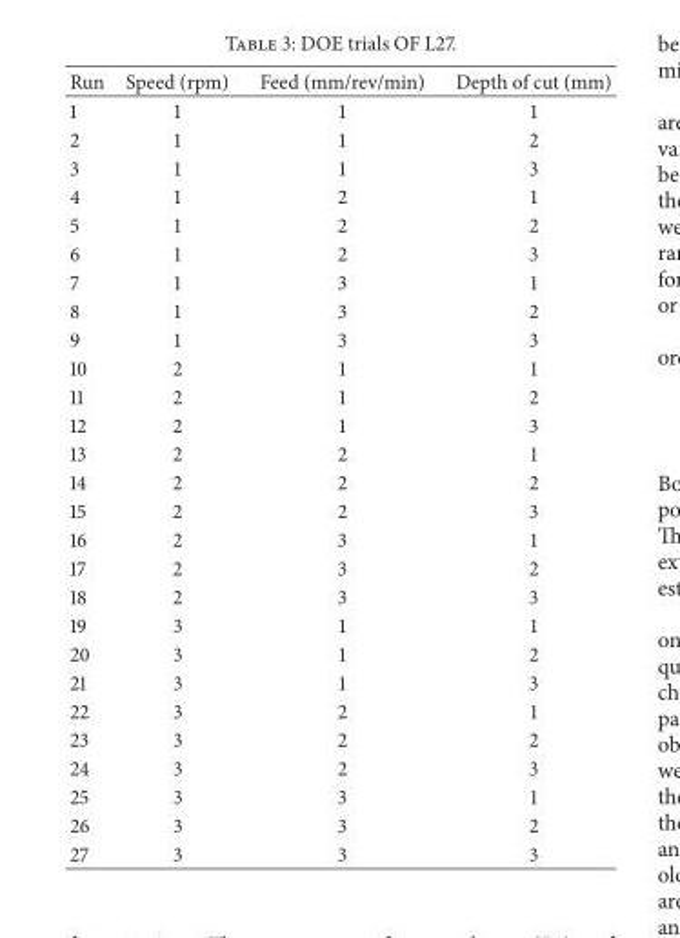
<table><thead><tr><td>Run</td><td>Speed (rpm)</td><td>Feed (mm/rev/min)</td><td>Depth of cut (mm)</td></tr></thead><tbody><tr><td>1</td><td>1</td><td>1</td><td>1</td></tr><tr><td>2</td><td>1</td><td>1</td><td>2</td></tr><tr><td>3</td><td>1</td><td>1</td><td>3</td></tr><tr><td>4</td><td>1</td><td>2</td><td>1</td></tr><tr><td>5</td><td>1</td><td>2</td><td>2</td></tr><tr><td>6</td><td>1</td><td>2</td><td>3</td></tr><tr><td>7</td><td>1</td><td>3</td><td>1</td></tr><tr><td>8</td><td>1</td><td>3</td><td>2</td></tr><tr><td>9</td><td>1</td><td>3</td><td>3</td></tr><tr><td>10</td><td>2</td><td>1</td><td>1</td></tr><tr><td>11</td><td>2</td><td>1</td><td>2</td></tr><tr><td>12</td><td>2</td><td>1</td><td>3</td></tr><tr><td>13</td><td>2</td><td>2</td><td>1</td></tr><tr><td>14</td><td>2</td><td>2</td><td>2</td></tr><tr><td>15</td><td>2</td><td>2</td><td>3</td></tr><tr><td>16</td><td>2</td><td>3</td><td>1</td></tr><tr><td>17</td><td>2</td><td>3</td><td>2</td></tr><tr><td>18</td><td>2</td><td>3</td><td>3</td></tr><tr><td>19</td><td>3</td><td>1</td><td>1</td></tr><tr><td>20</td><td>3</td><td>1</td><td>2</td></tr><tr><td>21</td><td>3</td><td>1</td><td>3</td></tr><tr><td>22</td><td>3</td><td>2</td><td>1</td></tr><tr><td>23</td><td>3</td><td>2</td><td>2</td></tr><tr><td>24</td><td>3</td><td>2</td><td>3</td></tr><tr><td>25</td><td>3</td><td>3</td><td>1</td></tr><tr><td>26</td><td>3</td><td>3</td><td>2</td></tr><tr><td>27</td><td>3</td><td>3</td><td>3</td></tr></tbody></table>